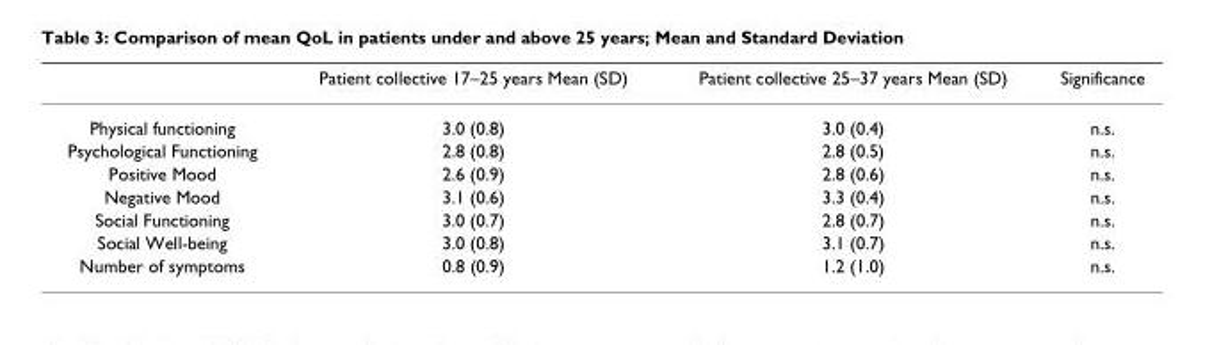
<table><thead><tr><td></td><td>Patient collective 17–25 years Mean (SD)</td><td>Patient collective 25–37 years Mean (SD)</td><td>Significance</td></tr></thead><tbody><tr><td>Physical functioning</td><td>3.0 (0.8)</td><td>3.0 (0.4)</td><td>n.s.</td></tr><tr><td>Psychological Functioning</td><td>2.8 (0.8)</td><td>2.8 (0.5)</td><td>n.s.</td></tr><tr><td>Positive Mood</td><td>2.6 (0.9)</td><td>2.8 (0.6)</td><td>n.s.</td></tr><tr><td>Negative Mood</td><td>3.1 (0.6)</td><td>3.3 (0.4)</td><td>n.s.</td></tr><tr><td>Social Functioning</td><td>3.0 (0.7)</td><td>2.8 (0.7)</td><td>n.s.</td></tr><tr><td>Social Well-being</td><td>3.0 (0.8)</td><td>3.1 (0.7)</td><td>n.s.</td></tr><tr><td>Number of symptoms</td><td>0.8 (0.9)</td><td>1.2 (1.0)</td><td>n.s.</td></tr></tbody></table>